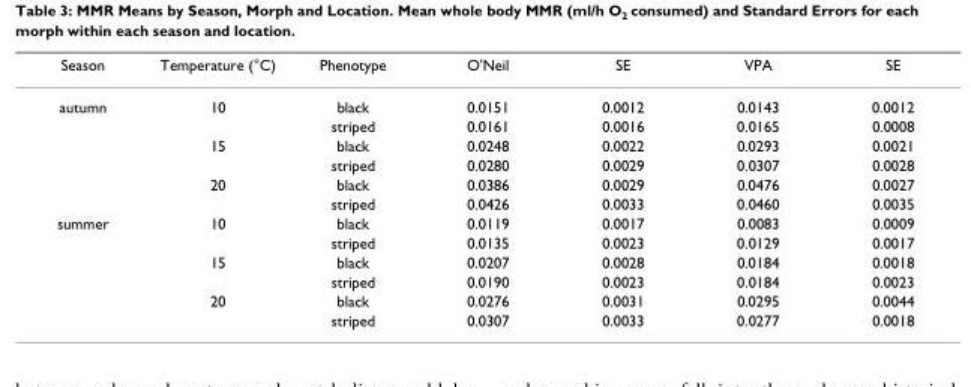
<table><thead><tr><td>Season</td><td>Temperature (°C)</td><td>Phenotype</td><td>O&#x27;Neil</td><td>SE</td><td>VPA</td><td>SE</td></tr></thead><tbody><tr><td rowspan="6">autumn</td><td>10</td><td>black</td><td>0.0151</td><td>0.0012</td><td>0.0143</td><td>0.0012</td></tr><tr><td></td><td>striped</td><td>0.0161</td><td>0.0016</td><td>0.0165</td><td>0.0008</td></tr><tr><td>15</td><td>black</td><td>0.0248</td><td>0.0022</td><td>0.0293</td><td>0.0021</td></tr><tr><td></td><td>striped</td><td>0.0280</td><td>0.0029</td><td>0.0307</td><td>0.0028</td></tr><tr><td>20</td><td>black</td><td>0.0386</td><td>0.0029</td><td>0.0476</td><td>0.0027</td></tr><tr><td></td><td>striped</td><td>0.0426</td><td>0.0033</td><td>0.0460</td><td>0.0035</td></tr><tr><td rowspan="6">summer</td><td>10</td><td>black</td><td>0.0119</td><td>0.0017</td><td>0.0083</td><td>0.0009</td></tr><tr><td></td><td>striped</td><td>0.0135</td><td>0.0023</td><td>0.0129</td><td>0.0017</td></tr><tr><td>15</td><td>black</td><td>0.0207</td><td>0.0028</td><td>0.0184</td><td>0.0018</td></tr><tr><td></td><td>striped</td><td>0.0190</td><td>0.0023</td><td>0.0184</td><td>0.0023</td></tr><tr><td>20</td><td>black</td><td>0.0276</td><td>0.0031</td><td>0.0295</td><td>0.0044</td></tr><tr><td></td><td>striped</td><td>0.0307</td><td>0.0033</td><td>0.0277</td><td>0.0018</td></tr></tbody></table>